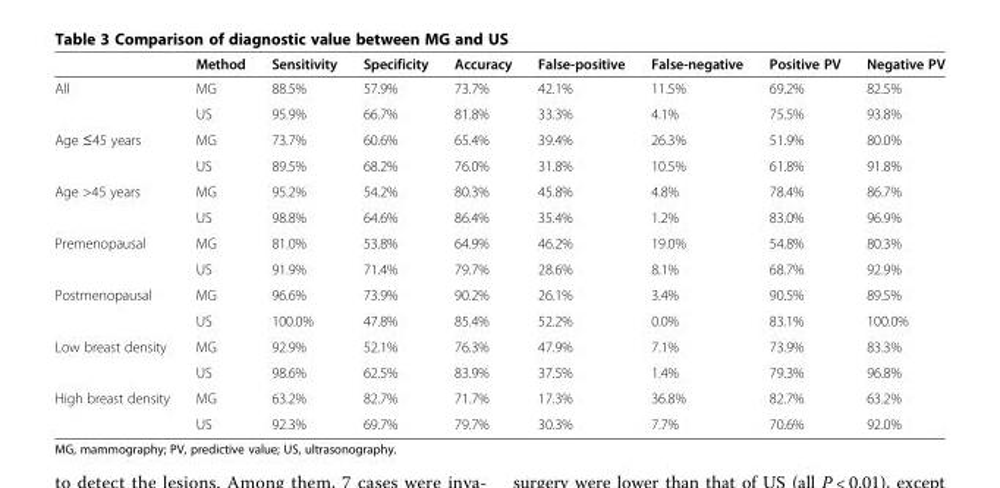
<table><thead><tr><td></td><td>Method</td><td>Sensitivity</td><td>Specificity</td><td>Accuracy</td><td>False-positive</td><td>False-negative</td><td>Positive PV</td><td>Negative PV</td></tr></thead><tbody><tr><td rowspan="2">All</td><td>MG</td><td>88.5%</td><td>57.9%</td><td>73.7%</td><td>42.1%</td><td>11.5%</td><td>69.2%</td><td>82.5%</td></tr><tr><td>US</td><td>95.9%</td><td>66.7%</td><td>81.8%</td><td>33.3%</td><td>4.1%</td><td>75.5%</td><td>93.8%</td></tr><tr><td rowspan="2">Age ≤45 years</td><td>MG</td><td>73.7%</td><td>60.6%</td><td>65.4%</td><td>39.4%</td><td>26.3%</td><td>51.9%</td><td>80.0%</td></tr><tr><td>US</td><td>89.5%</td><td>68.2%</td><td>76.0%</td><td>31.8%</td><td>10.5%</td><td>61.8%</td><td>91.8%</td></tr><tr><td rowspan="2">Age &gt;45 years</td><td>MG</td><td>95.2%</td><td>54.2%</td><td>80.3%</td><td>45.8%</td><td>4.8%</td><td>78.4%</td><td>86.7%</td></tr><tr><td>US</td><td>98.8%</td><td>64.6%</td><td>86.4%</td><td>35.4%</td><td>1.2%</td><td>83.0%</td><td>96.9%</td></tr><tr><td rowspan="2">Premenopausal</td><td>MG</td><td>81.0%</td><td>53.8%</td><td>64.9%</td><td>46.2%</td><td>19.0%</td><td>54.8%</td><td>80.3%</td></tr><tr><td>US</td><td>91.9%</td><td>71.4%</td><td>79.7%</td><td>28.6%</td><td>8.1%</td><td>68.7%</td><td>92.9%</td></tr><tr><td rowspan="2">Postmenopausal</td><td>MG</td><td>96.6%</td><td>73.9%</td><td>90.2%</td><td>26.1%</td><td>3.4%</td><td>90.5%</td><td>89.5%</td></tr><tr><td>US</td><td>100.0%</td><td>47.8%</td><td>85.4%</td><td>52.2%</td><td>0.0%</td><td>83.1%</td><td>100.0%</td></tr><tr><td rowspan="2">Low breast density</td><td>MG</td><td>92.9%</td><td>52.1%</td><td>76.3%</td><td>47.9%</td><td>7.1%</td><td>73.9%</td><td>83.3%</td></tr><tr><td>US</td><td>98.6%</td><td>62.5%</td><td>83.9%</td><td>37.5%</td><td>1.4%</td><td>79.3%</td><td>96.8%</td></tr><tr><td rowspan="2">High breast density</td><td>MG</td><td>63.2%</td><td>82.7%</td><td>71.7%</td><td>17.3%</td><td>36.8%</td><td>82.7%</td><td>63.2%</td></tr><tr><td>US</td><td>92.3%</td><td>69.7%</td><td>79.7%</td><td>30.3%</td><td>7.7%</td><td>70.6%</td><td>92.0%</td></tr></tbody></table>